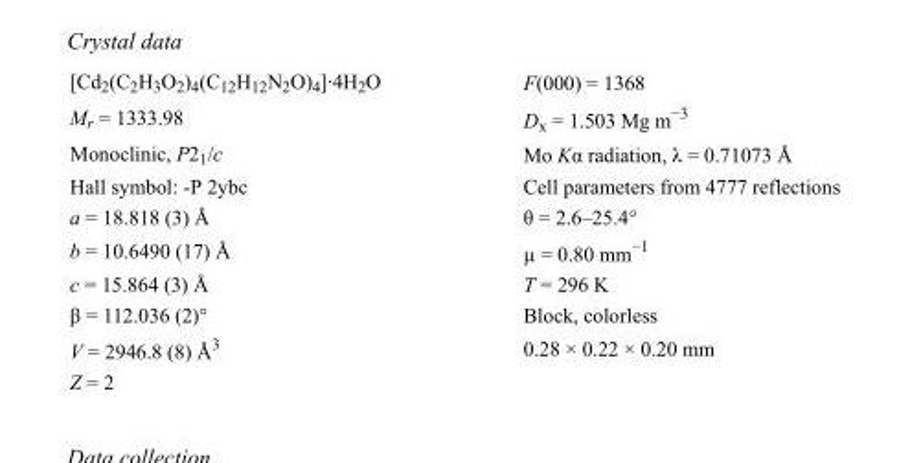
<table><tbody><tr><td>[Cd<sub>2</sub>(C<sub>2</sub>H<sub>3</sub>O<sub>2</sub>)<sub>4</sub>(C<sub>12</sub>H<sub>12</sub>N<sub>2</sub>O)<sub>4</sub>]·4H<sub>2</sub>O</td><td>F(000) = 1368</td></tr><tr><td>M<sub>r</sub> = 1333.98</td><td>D<sub>x</sub> = 1.503 Mg m<sup>−3</sup></td></tr><tr><td>Monoclinic, P2<sub>1</sub>/c</td><td>Mo Kα radiation, λ = 0.71073 Å</td></tr><tr><td>Hall symbol: -P 2ybc</td><td>Cell parameters from 4777 reflections</td></tr><tr><td>a = 18.818 (3) Å</td><td>θ = 2.6–25.4°</td></tr><tr><td>b = 10.6490 (17) Å</td><td>µ = 0.80 mm<sup>−1</sup></td></tr><tr><td>c = 15.864 (3) Å</td><td>T = 296 K</td></tr><tr><td>β = 112.036 (2)°</td><td>Block, colorless</td></tr><tr><td>V = 2946.8 (8) Å<sup>3</sup></td><td>0.28 × 0.22 × 0.20 mm</td></tr><tr><td>Z = 2</td><td></td></tr></tbody></table>